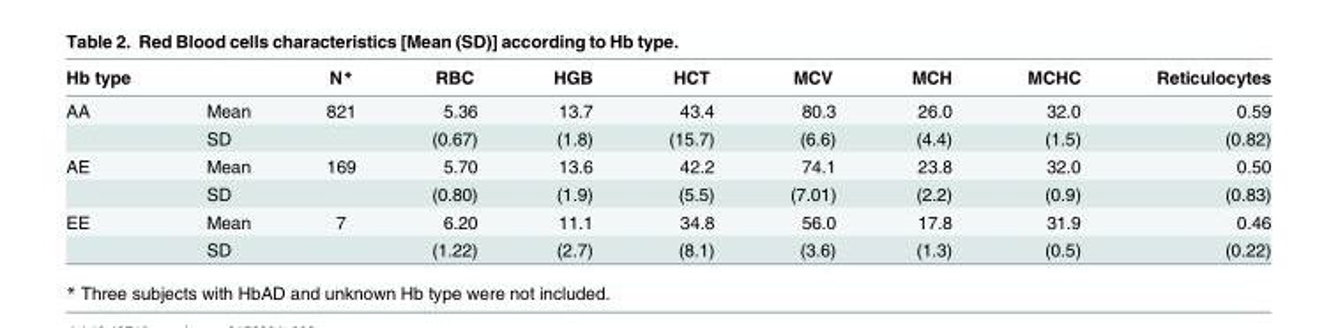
<table><thead><tr><td>Hb type</td><td></td><td>N*</td><td>RBC</td><td>HGB</td><td>HCT</td><td>MCV</td><td>MCH</td><td>MCHC</td><td>Reticulocytes</td></tr></thead><tbody><tr><td rowspan="2">AA</td><td>Mean</td><td>821</td><td>5.36</td><td>13.7</td><td>43.4</td><td>80.3</td><td>26.0</td><td>32.0</td><td>0.59</td></tr><tr><td>SD</td><td></td><td>(0.67)</td><td>(1.8)</td><td>(15.7)</td><td>(6.6)</td><td>(4.4)</td><td>(1.5)</td><td>(0.82)</td></tr><tr><td rowspan="2">AE</td><td>Mean</td><td>169</td><td>5.70</td><td>13.6</td><td>42.2</td><td>74.1</td><td>23.8</td><td>32.0</td><td>0.50</td></tr><tr><td>SD</td><td></td><td>(0.80)</td><td>(1.9)</td><td>(5.5)</td><td>(7.01)</td><td>(2.2)</td><td>(0.9)</td><td>(0.83)</td></tr><tr><td rowspan="2">EE</td><td>Mean</td><td>7</td><td>6.20</td><td>11.1</td><td>34.8</td><td>56.0</td><td>17.8</td><td>31.9</td><td>0.46</td></tr><tr><td>SD</td><td></td><td>(1.22)</td><td>(2.7)</td><td>(8.1)</td><td>(3.6)</td><td>(1.3)</td><td>(0.5)</td><td>(0.22)</td></tr></tbody></table>